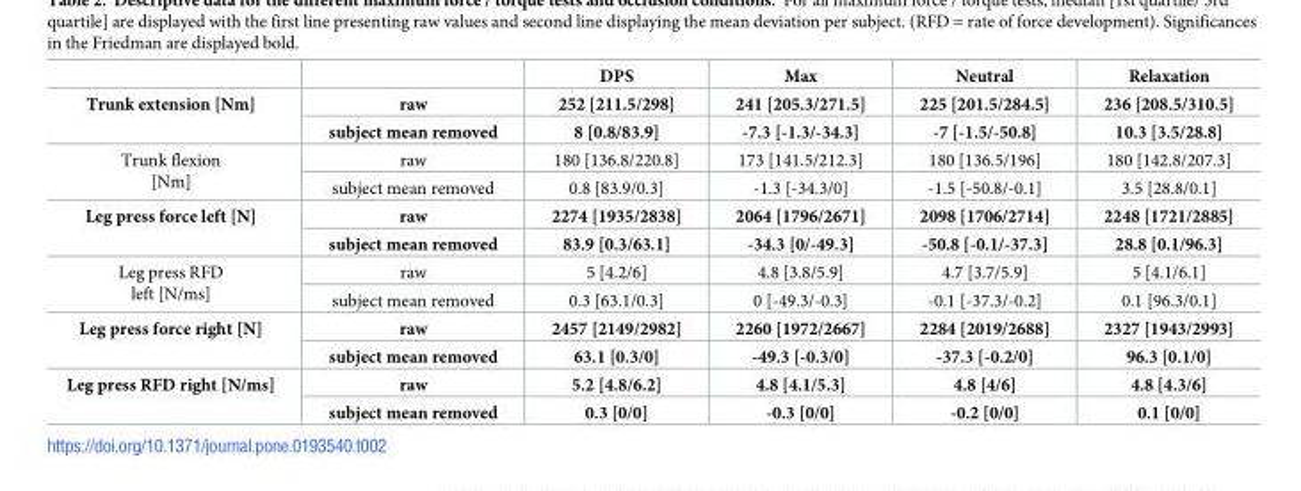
<table><thead><tr><td></td><td></td><td>DPS</td><td>Max</td><td>Neutral</td><td>Relaxation</td></tr></thead><tbody><tr><td rowspan="2">Trunk extension [Nm]</td><td>raw</td><td>252 [211.5/298]</td><td>241 [205.3/271.5]</td><td>225 [201.5/284.5]</td><td>236 [208.5/310.5]</td></tr><tr><td>subject mean removed</td><td>8 [0.8/83.9]</td><td>-7.3 [-1.3/-34.3]</td><td>-7 [-1.5/-50.8]</td><td>10.3 [3.5/28.8]</td></tr><tr><td rowspan="2">Trunk flexion [Nm]</td><td>raw</td><td>180 [136.8/220.8]</td><td>173 [141.5/212.3]</td><td>180 [136.5/196]</td><td>180 [142.8/207.3]</td></tr><tr><td>subject mean removed</td><td>0.8 [83.9/0.3]</td><td>-1.3 [-34.3/0]</td><td>-1.5 [-50.8/-0.1]</td><td>3.5 [28.8/0.1]</td></tr><tr><td rowspan="2">Leg press force left [N]</td><td>raw</td><td>2274 [1935/2838]</td><td>2064 [1796/2671]</td><td>2098 [1706/2714]</td><td>2248 [1721/2885]</td></tr><tr><td>subject mean removed</td><td>83.9 [0.3/63.1]</td><td>-34.3 [0/-49.3]</td><td>-50.8 [-0.1/-37.3]</td><td>28.8 [0.1/96.3]</td></tr><tr><td rowspan="2">Leg press RFD left [N/ms]</td><td>raw</td><td>5 [4.2/6]</td><td>4.8 [3.8/5.9]</td><td>4.7 [3.7/5.9]</td><td>5 [4.1/6.1]</td></tr><tr><td>subject mean removed</td><td>0.3 [63.1/0.3]</td><td>0 [-49.3/-0.3]</td><td>-0.1 [-37.3/-0.2]</td><td>0.1 [96.3/0.1]</td></tr><tr><td rowspan="2">Leg press force right [N]</td><td>raw</td><td>2457 [2149/2982]</td><td>2260 [1972/2667]</td><td>2284 [2019/2688]</td><td>2327 [1943/2993]</td></tr><tr><td>subject mean removed</td><td>63.1 [0.3/0]</td><td>-49.3 [-0.3/0]</td><td>-37.3 [-0.2/0]</td><td>96.3 [0.1/0]</td></tr><tr><td rowspan="2">Leg press RFD right [N/ms]</td><td>raw</td><td>5.2 [4.8/6.2]</td><td>4.8 [4.1/5.3]</td><td>4.8 [4/6]</td><td>4.8 [4.3/6]</td></tr><tr><td>subject mean removed</td><td>0.3 [0/0]</td><td>-0.3 [0/0]</td><td>-0.2 [0/0]</td><td>0.1 [0/0]</td></tr></tbody></table>